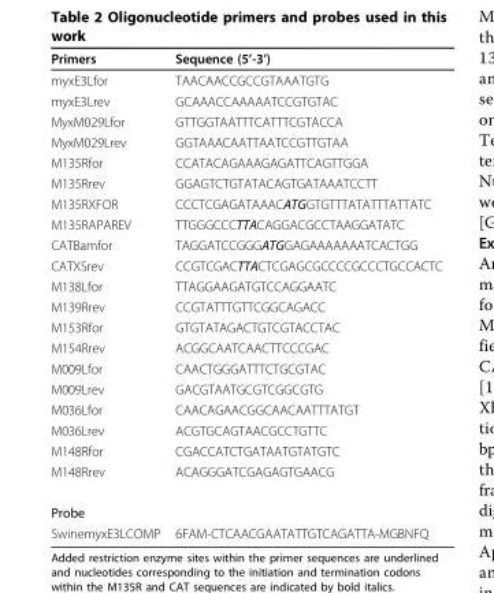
<table><thead><tr><td>Primers</td><td>Sequence (5’-3’)</td></tr></thead><tbody><tr><td>myxE3Lfor</td><td>TAACAACCGCCGTAAATGTG</td></tr><tr><td>myxE3Lrev</td><td>GCAAACCAAAAATCCGTGTAC</td></tr><tr><td>MyxM029Lfor</td><td>GTTGGTAATTTCATTTCGTACCA</td></tr><tr><td>MyxM029Lrev</td><td>GGTAAACAATTAATCCGTTGTAA</td></tr><tr><td>M135Rfor</td><td>CCATACAGAAAGAGATTCAGTTGGA</td></tr><tr><td>M135Rrev</td><td>GGAGTCTGTATACAGTGATAAATCCTT</td></tr><tr><td>M135RXFOR</td><td>CCCTCGAGATAAACATGGTGTTTATATTTATTATC</td></tr><tr><td>M135RAPAREV</td><td>TTGGGCCCTTACAGGACGCCTAAGGATATC</td></tr><tr><td>CATBamfor</td><td>TAGGATCCGGGATGGAGAAAAAAATCACTGG</td></tr><tr><td>CATXSrev</td><td>CCGTCGACTTACTCGAGCGCCCCGCCCTGCCACTC</td></tr><tr><td>M138Lfor</td><td>TTAGGAAGATGTCCAGGAATC</td></tr><tr><td>M139Rrev</td><td>CCGTATTTGTTCGGCAGACC</td></tr><tr><td>M153Rfor</td><td>GTGTATAGACTGTCGTACCTAC</td></tr><tr><td>M154Rrev</td><td>ACGGCAATCAACTTCCCGAC</td></tr><tr><td>M009Lfor</td><td>CAACTGGGATTTCTGCGTAC</td></tr><tr><td>M009Lrev</td><td>GACGTAATGCGTCGGCGTG</td></tr><tr><td>M036Lfor</td><td>CAACAGAACGGCAACAATTTATGT</td></tr><tr><td>M036Lrev</td><td>ACGTGCAGTAACGCCTGTTC</td></tr><tr><td>M148Rfor</td><td>CGACCATCTGATAATGTATGTC</td></tr><tr><td>M148Rrev</td><td>ACAGGGATCGAGAGTGAACG</td></tr><tr><td colspan="2">Probe</td></tr><tr><td>SwinemyxE3LCOMP</td><td>6FAM-CTCAACGAATATTGTCAGATTA-MGBNFQ</td></tr></tbody></table>